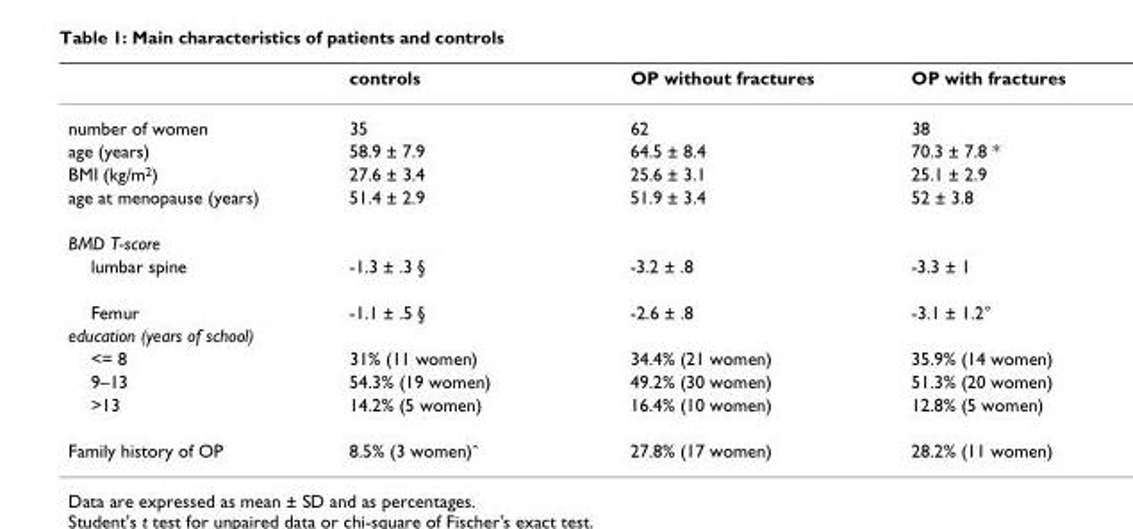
<table><thead><tr><td></td><td>controls</td><td>OP without fractures</td><td>OP with fractures</td></tr></thead><tbody><tr><td>number of women</td><td>35</td><td>62</td><td>38</td></tr><tr><td>age (years)</td><td>58.9 ± 7.9</td><td>64.5 ± 8.4</td><td>70.3 ± 7.8 *</td></tr><tr><td>BMI (kg/m<sup>2</sup>)</td><td>27.6 ± 3.4</td><td>25.6 ± 3.1</td><td>25.1 ± 2.9</td></tr><tr><td>age at menopause (years)</td><td>51.4 ± 2.9</td><td>51.9 ± 3.4</td><td>52 ± 3.8</td></tr><tr><td colspan="4">BMD T-score</td></tr><tr><td>lumbar spine</td><td>-1.3 ± .3 §</td><td>-3.2 ± .8</td><td>-3.3 ± 1</td></tr><tr><td>Femur</td><td>-1.1 ± .5 §</td><td>-2.6 ± .8</td><td>-3.1 ± 1.2°</td></tr><tr><td colspan="4">education (years of school)</td></tr><tr><td>&lt;= 8</td><td>31% (11 women)</td><td>34.4% (21 women)</td><td>35.9% (14 women)</td></tr><tr><td>9–13</td><td>54.3% (19 women)</td><td>49.2% (30 women)</td><td>51.3% (20 women)</td></tr><tr><td>&gt;13</td><td>14.2% (5 women)</td><td>16.4% (10 women)</td><td>12.8% (5 women)</td></tr><tr><td>Family history of OP</td><td>8.5% (3 women)ˆ</td><td>27.8% (17 women)</td><td>28.2% (11 women)</td></tr></tbody></table>